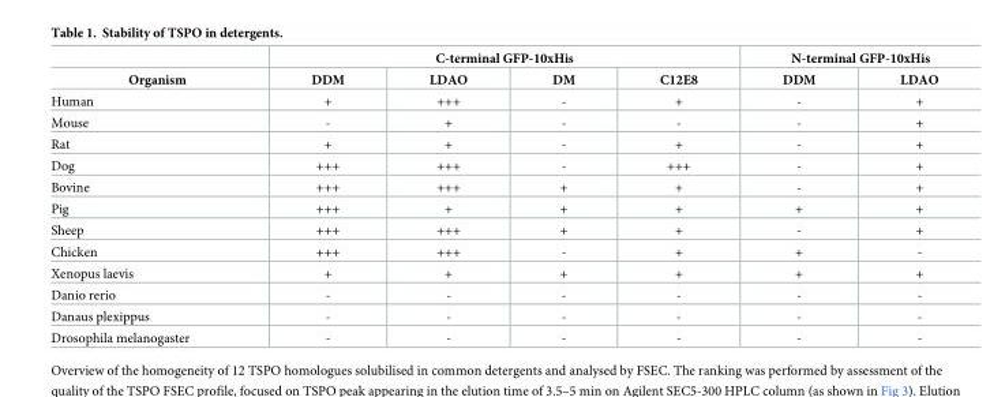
<table><thead><tr><td rowspan="2">Organism</td><td colspan="4">C-terminal GFP-10xHis</td><td colspan="2">N-terminal GFP-10xHis</td></tr><tr><td>DDM</td><td>LDAO</td><td>DM</td><td>C12E8</td><td>DDM</td><td>LDAO</td></tr></thead><tbody><tr><td>Human</td><td>+</td><td>+++</td><td>-</td><td>+</td><td>-</td><td>+</td></tr><tr><td>Mouse</td><td>-</td><td>+</td><td>-</td><td>-</td><td>-</td><td>+</td></tr><tr><td>Rat</td><td>+</td><td>+</td><td>-</td><td>+</td><td>-</td><td>+</td></tr><tr><td>Dog</td><td>+++</td><td>+++</td><td>-</td><td>+++</td><td>-</td><td>+</td></tr><tr><td>Bovine</td><td>+++</td><td>+++</td><td>+</td><td>+</td><td>-</td><td>+</td></tr><tr><td>Pig</td><td>+++</td><td>+</td><td>+</td><td>+</td><td>+</td><td>+</td></tr><tr><td>Sheep</td><td>+++</td><td>+++</td><td>+</td><td>+</td><td>-</td><td>+</td></tr><tr><td>Chicken</td><td>+++</td><td>+++</td><td>-</td><td>+</td><td>+</td><td>-</td></tr><tr><td>Xenopus laevis</td><td>+</td><td>+</td><td>+</td><td>+</td><td>+</td><td>+</td></tr><tr><td>Danio rerio</td><td>-</td><td>-</td><td>-</td><td>-</td><td>-</td><td>-</td></tr><tr><td>Danaus plexippus</td><td>-</td><td>-</td><td>-</td><td>-</td><td>-</td><td>-</td></tr><tr><td>Drosophila melanogaster</td><td>-</td><td>-</td><td>-</td><td>-</td><td>-</td><td>-</td></tr></tbody></table>